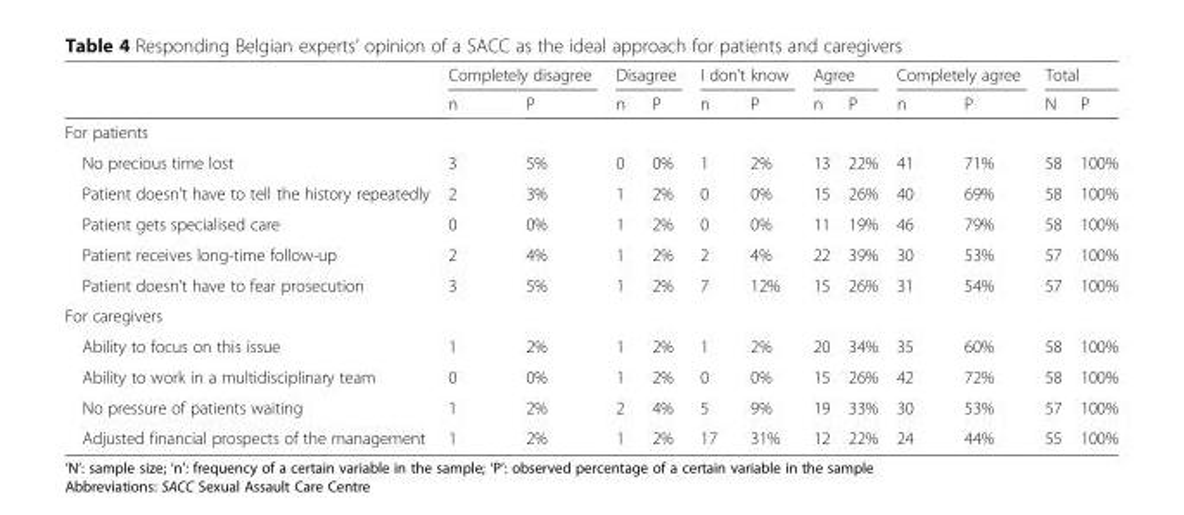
<table><thead><tr><td rowspan="2"></td><td colspan="2">Completely disagree</td><td colspan="2">Disagree</td><td colspan="2">I don’t know</td><td colspan="2">Agree</td><td colspan="2">Completely agree</td><td colspan="2">Total</td></tr><tr><td>n</td><td>P</td><td>n</td><td>P</td><td>n</td><td>P</td><td>n</td><td>P</td><td>n</td><td>P</td><td>N</td><td>P</td></tr></thead><tbody><tr><td colspan="13">For patients</td></tr><tr><td>No precious time lost</td><td>3</td><td>5%</td><td>0</td><td>0%</td><td>1</td><td>2%</td><td>13</td><td>22%</td><td>41</td><td>71%</td><td>58</td><td>100%</td></tr><tr><td>Patient doesn’t have to tell the history repeatedly</td><td>2</td><td>3%</td><td>1</td><td>2%</td><td>0</td><td>0%</td><td>15</td><td>26%</td><td>40</td><td>69%</td><td>58</td><td>100%</td></tr><tr><td>Patient gets specialised care</td><td>0</td><td>0%</td><td>1</td><td>2%</td><td>0</td><td>0%</td><td>11</td><td>19%</td><td>46</td><td>79%</td><td>58</td><td>100%</td></tr><tr><td>Patient receives long-time follow-up</td><td>2</td><td>4%</td><td>1</td><td>2%</td><td>2</td><td>4%</td><td>22</td><td>39%</td><td>30</td><td>53%</td><td>57</td><td>100%</td></tr><tr><td>Patient doesn’t have to fear prosecution</td><td>3</td><td>5%</td><td>1</td><td>2%</td><td>7</td><td>12%</td><td>15</td><td>26%</td><td>31</td><td>54%</td><td>57</td><td>100%</td></tr><tr><td colspan="13">For caregivers</td></tr><tr><td>Ability to focus on this issue</td><td>1</td><td>2%</td><td>1</td><td>2%</td><td>1</td><td>2%</td><td>20</td><td>34%</td><td>35</td><td>60%</td><td>58</td><td>100%</td></tr><tr><td>Ability to work in a multidisciplinary team</td><td>0</td><td>0%</td><td>1</td><td>2%</td><td>0</td><td>0%</td><td>15</td><td>26%</td><td>42</td><td>72%</td><td>58</td><td>100%</td></tr><tr><td>No pressure of patients waiting</td><td>1</td><td>2%</td><td>2</td><td>4%</td><td>5</td><td>9%</td><td>19</td><td>33%</td><td>30</td><td>53%</td><td>57</td><td>100%</td></tr><tr><td>Adjusted financial prospects of the management</td><td>1</td><td>2%</td><td>1</td><td>2%</td><td>17</td><td>31%</td><td>12</td><td>22%</td><td>24</td><td>44%</td><td>55</td><td>100%</td></tr></tbody></table>